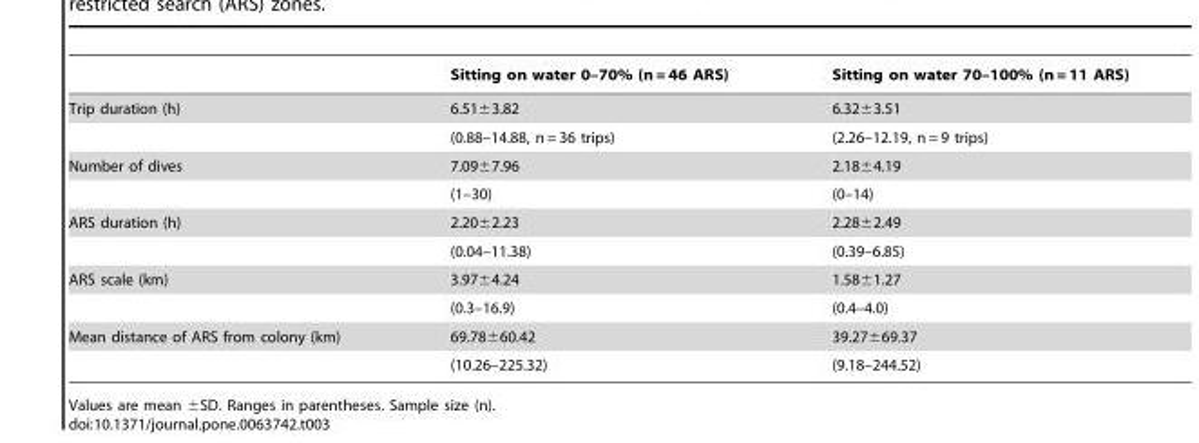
<table><thead><tr><td></td><td>Sitting on water 0–70% (n = 46 ARS)</td><td>Sitting on water 70–100% (n = 11 ARS)</td></tr></thead><tbody><tr><td rowspan="2">Trip duration (h)</td><td>6.51±3.82</td><td>6.32±3.51</td></tr><tr><td>(0.88–14.88, n = 36 trips)</td><td>(2.26–12.19, n = 9 trips)</td></tr><tr><td rowspan="2">Number of dives</td><td>7.09±7.96</td><td>2.18±4.19</td></tr><tr><td>(1–30)</td><td>(0–14)</td></tr><tr><td rowspan="2">ARS duration (h)</td><td>2.20±2.23</td><td>2.28±2.49</td></tr><tr><td>(0.04–11.38)</td><td>(0.39–6.85)</td></tr><tr><td rowspan="2">ARS scale (km)</td><td>3.97±4.24</td><td>1.58±1.27</td></tr><tr><td>(0.3–16.9)</td><td>(0.4–4.0)</td></tr><tr><td rowspan="2">Mean distance of ARS from colony (km)</td><td>69.78±60.42</td><td>39.27±69.37</td></tr><tr><td>(10.26–225.32)</td><td>(9.18–244.52)</td></tr></tbody></table>